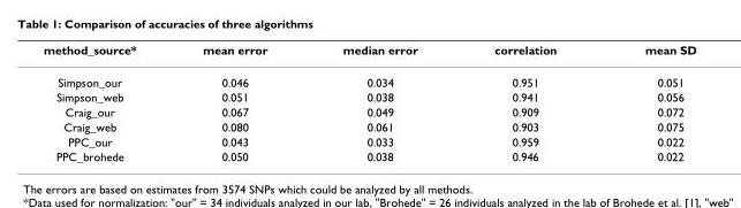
<table><thead><tr><td>method_source*</td><td>mean error</td><td>median error</td><td>correlation</td><td>mean SD</td></tr></thead><tbody><tr><td>Simpson_our</td><td>0.046</td><td>0.034</td><td>0.951</td><td>0.051</td></tr><tr><td>Simpson_web</td><td>0.051</td><td>0.038</td><td>0.941</td><td>0.056</td></tr><tr><td>Craig_our</td><td>0.067</td><td>0.049</td><td>0.909</td><td>0.072</td></tr><tr><td>Craig_web</td><td>0.080</td><td>0.061</td><td>0.903</td><td>0.075</td></tr><tr><td>PPC_our</td><td>0.043</td><td>0.033</td><td>0.959</td><td>0.022</td></tr><tr><td>PPC_brohede</td><td>0.050</td><td>0.038</td><td>0.946</td><td>0.022</td></tr></tbody></table>